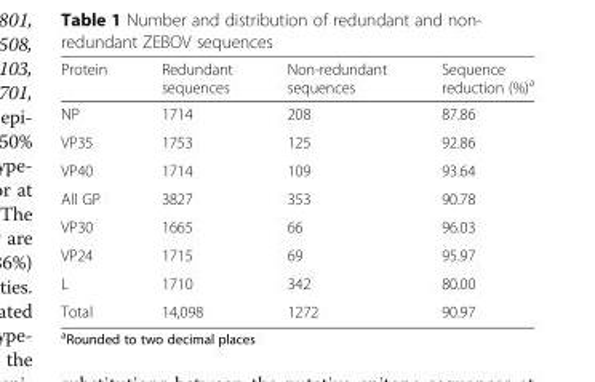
<table><thead><tr><td>Protein</td><td>Redundant sequences</td><td>Non-redundant sequences</td><td>Sequence reduction (%)<sup>a</sup></td></tr></thead><tbody><tr><td>NP</td><td>1714</td><td>208</td><td>87.86</td></tr><tr><td>VP35</td><td>1753</td><td>125</td><td>92.86</td></tr><tr><td>VP40</td><td>1714</td><td>109</td><td>93.64</td></tr><tr><td>All GP</td><td>3827</td><td>353</td><td>90.78</td></tr><tr><td>VP30</td><td>1665</td><td>66</td><td>96.03</td></tr><tr><td>VP24</td><td>1715</td><td>69</td><td>95.97</td></tr><tr><td>L</td><td>1710</td><td>342</td><td>80.00</td></tr><tr><td>Total</td><td>14,098</td><td>1272</td><td>90.97</td></tr></tbody></table>